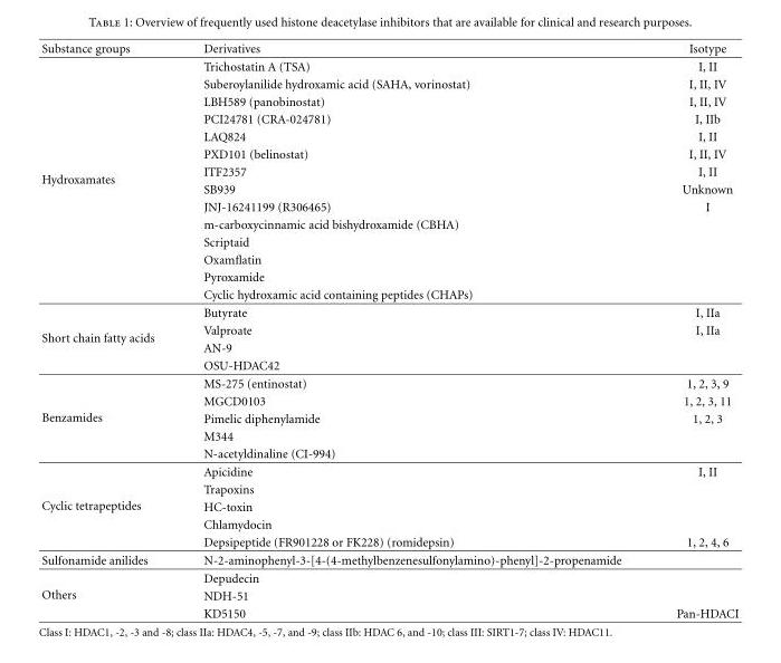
<table><thead><tr><td>Substance groups</td><td>Derivatives</td><td>Isotype</td></tr></thead><tbody><tr><td rowspan="14">Hydroxamates</td><td>Trichostatin A (TSA)</td><td>I, II</td></tr><tr><td>Suberoylanilide hydroxamic acid (SAHA, vorinostat)</td><td>I, II, IV</td></tr><tr><td>LBH589 (panobinostat)</td><td>I, II, IV</td></tr><tr><td>PCI24781 (CRA-024781)</td><td>I, IIb</td></tr><tr><td>LAQ824</td><td>I, II</td></tr><tr><td>PXD101 (belinostat)</td><td>I, II, IV</td></tr><tr><td>ITF2357</td><td>I, II</td></tr><tr><td>SB939</td><td>Unknown</td></tr><tr><td>JNJ-16241199 (R306465)</td><td>I</td></tr><tr><td>m-carboxycinnamic acid bishydroxamide (CBHA)</td><td></td></tr><tr><td>Scriptaid</td><td></td></tr><tr><td>Oxamflatin</td><td></td></tr><tr><td>Pyroxamide</td><td></td></tr><tr><td>Cyclic hydroxamic acid containing peptides (CHAPs)</td><td></td></tr><tr><td rowspan="4">Short chain fatty acids</td><td>Butyrate</td><td>I, IIa</td></tr><tr><td>Valproate</td><td>I, IIa</td></tr><tr><td>AN-9</td><td></td></tr><tr><td>OSU-HDAC42</td><td></td></tr><tr><td rowspan="5">Benzamides</td><td>MS-275 (entinostat)</td><td>1, 2, 3, 9</td></tr><tr><td>MGCD0103</td><td>1, 2, 3, 11</td></tr><tr><td>Pimelic diphenylamide</td><td>1, 2, 3</td></tr><tr><td>M344</td><td></td></tr><tr><td>N-acetyldinaline (CI-994)</td><td></td></tr><tr><td rowspan="5">Cyclic tetrapeptides</td><td>Apicidine</td><td>I, II</td></tr><tr><td>Trapoxins</td><td></td></tr><tr><td>HC-toxin</td><td></td></tr><tr><td>Chlamydocin</td><td></td></tr><tr><td>Depsipeptide (FR901228 or FK228) (romidepsin)</td><td>1, 2, 4, 6</td></tr><tr><td>Sulfonamide anilides</td><td>N-2-aminophenyl-3-[4-(4-methylbenzenesulfonylamino)-phenyl]-2-propenamide</td><td></td></tr><tr><td rowspan="3">Others</td><td>Depudecin</td><td></td></tr><tr><td>NDH-51</td><td></td></tr><tr><td>KD5150</td><td>Pan-HDACI</td></tr></tbody></table>